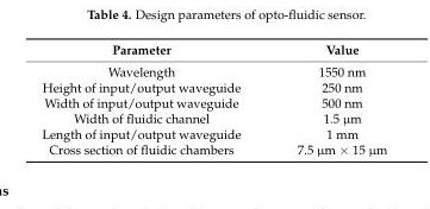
<table><thead><tr><td>Parameter</td><td>Value</td></tr></thead><tbody><tr><td>Wavelength</td><td>1550 nm</td></tr><tr><td>Height of input/output waveguide</td><td>250 nm</td></tr><tr><td>Width of input/output waveguide</td><td>500 nm</td></tr><tr><td>Width of fluidic channel</td><td>1.5 µm</td></tr><tr><td>Length of input/output waveguide</td><td>1 mm</td></tr><tr><td>Cross section of fluidic chambers</td><td>7.5 µm × 15 µm</td></tr></tbody></table>